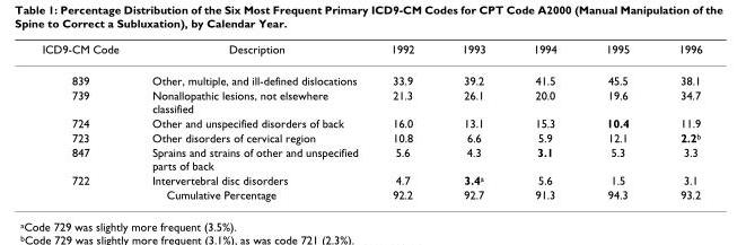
<table><thead><tr><td>ICD9-CM Code</td><td>Description</td><td>1992</td><td>1993</td><td>1994</td><td>1995</td><td>1996</td></tr></thead><tbody><tr><td>839</td><td>Other, multiple, and ill-defined dislocations</td><td>33.9</td><td>39.2</td><td>41.5</td><td>45.5</td><td>38.1</td></tr><tr><td>739</td><td>Nonallopathic lesions, not elsewhere classified</td><td>21.3</td><td>26.1</td><td>20.0</td><td>19.6</td><td>34.7</td></tr><tr><td>724</td><td>Other and unspecified disorders of back</td><td>16.0</td><td>13.1</td><td>15.3</td><td>10.4</td><td>11.9</td></tr><tr><td>723</td><td>Other disorders of cervical region</td><td>10.8</td><td>6.6</td><td>5.9</td><td>12.1</td><td>2.2<sup>b</sup></td></tr><tr><td>847</td><td>Sprains and strains of other and unspecified parts of back</td><td>5.6</td><td>4.3</td><td>3.1</td><td>5.3</td><td>3.3</td></tr><tr><td rowspan="2">722</td><td>Intervertebral disc disorders</td><td>4.7</td><td>3.4<sup>a</sup></td><td>5.6</td><td>1.5</td><td>3.1</td></tr><tr><td>Cumulative Percentage</td><td>92.2</td><td>92.7</td><td>91.3</td><td>94.3</td><td>93.2</td></tr></tbody></table>